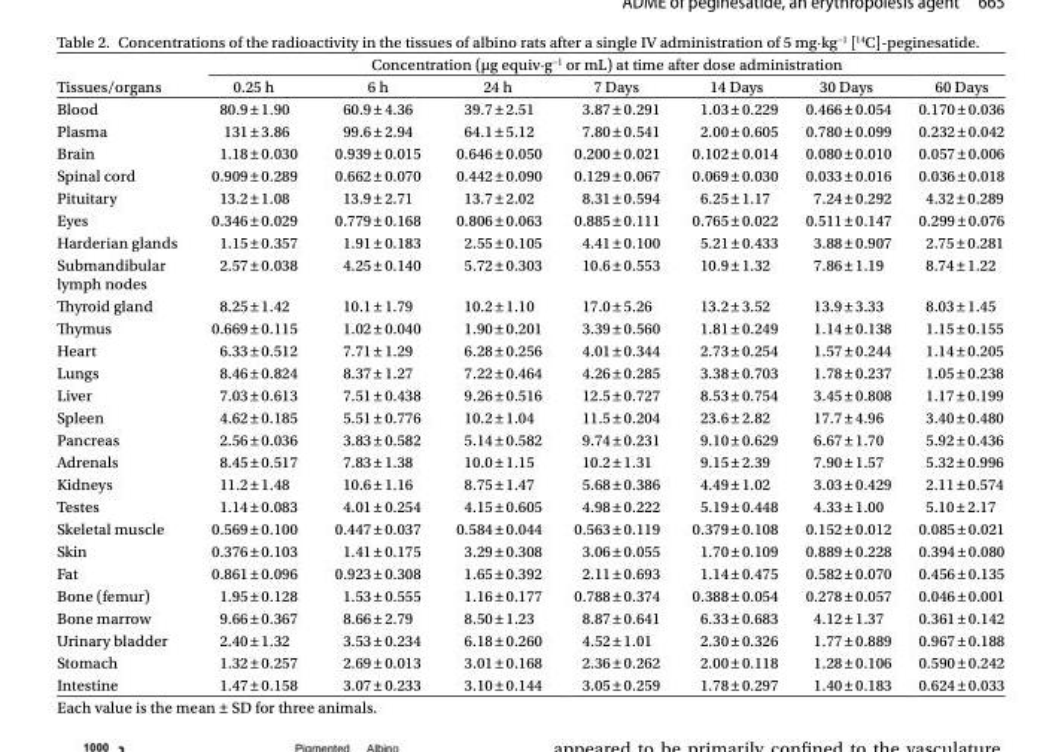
<table><thead><tr><td rowspan="2">Tissues/organs</td><td colspan="7">Concentration (µg equiv·g<sup>−1</sup> or mL) at time after dose administration</td></tr><tr><td>0.25 h</td><td>6 h</td><td>24 h</td><td>7 Days</td><td>14 Days</td><td>30 Days</td><td>60 Days</td></tr></thead><tbody><tr><td>Blood</td><td>80.9 ± 1.90</td><td>60.9 ± 4.36</td><td>39.7 ± 2.51</td><td>3.87 ± 0.291</td><td>1.03 ± 0.229</td><td>0.466 ± 0.054</td><td>0.170 ± 0.036</td></tr><tr><td>Plasma</td><td>131 ± 3.86</td><td>99.6 ± 2.94</td><td>64.1 ± 5.12</td><td>7.80 ± 0.541</td><td>2.00 ± 0.605</td><td>0.780 ± 0.099</td><td>0.232 ± 0.042</td></tr><tr><td>Brain</td><td>1.18 ± 0.030</td><td>0.939 ± 0.015</td><td>0.646 ± 0.050</td><td>0.200 ± 0.021</td><td>0.102 ± 0.014</td><td>0.080 ± 0.010</td><td>0.057 ± 0.006</td></tr><tr><td>Spinal cord</td><td>0.909 ± 0.289</td><td>0.662 ± 0.070</td><td>0.442 ± 0.090</td><td>0.129 ± 0.067</td><td>0.069 ± 0.030</td><td>0.033 ± 0.016</td><td>0.036 ± 0.018</td></tr><tr><td>Pituitary</td><td>13.2 ± 1.08</td><td>13.9 ± 2.71</td><td>13.7 ± 2.02</td><td>8.31 ± 0.594</td><td>6.25 ± 1.17</td><td>7.24 ± 0.292</td><td>4.32 ± 0.289</td></tr><tr><td>Eyes</td><td>0.346 ± 0.029</td><td>0.779 ± 0.168</td><td>0.806 ± 0.063</td><td>0.885 ± 0.111</td><td>0.765 ± 0.022</td><td>0.511 ± 0.147</td><td>0.299 ± 0.076</td></tr><tr><td>Harderian glands</td><td>1.15 ± 0.357</td><td>1.91 ± 0.183</td><td>2.55 ± 0.105</td><td>4.41 ± 0.100</td><td>5.21 ± 0.433</td><td>3.88 ± 0.907</td><td>2.75 ± 0.281</td></tr><tr><td>Submandibular lymph nodes</td><td>2.57 ± 0.038</td><td>4.25 ± 0.140</td><td>5.72 ± 0.303</td><td>10.6 ± 0.553</td><td>10.9 ± 1.32</td><td>7.86 ± 1.19</td><td>8.74 ± 1.22</td></tr><tr><td>Thyroid gland</td><td>8.25 ± 1.42</td><td>10.1 ± 1.79</td><td>10.2 ± 1.10</td><td>17.0 ± 5.26</td><td>13.2 ± 3.52</td><td>13.9 ± 3.33</td><td>8.03 ± 1.45</td></tr><tr><td>Thymus</td><td>0.669 ± 0.115</td><td>1.02 ± 0.040</td><td>1.90 ± 0.201</td><td>3.39 ± 0.560</td><td>1.81 ± 0.249</td><td>1.14 ± 0.138</td><td>1.15 ± 0.155</td></tr><tr><td>Heart</td><td>6.33 ± 0.512</td><td>7.71 ± 1.29</td><td>6.28 ± 0.256</td><td>4.01 ± 0.344</td><td>2.73 ± 0.254</td><td>1.57 ± 0.244</td><td>1.14 ± 0.205</td></tr><tr><td>Lungs</td><td>8.46 ± 0.824</td><td>8.37 ± 1.27</td><td>7.22 ± 0.464</td><td>4.26 ± 0.285</td><td>3.38 ± 0.703</td><td>1.78 ± 0.237</td><td>1.05 ± 0.238</td></tr><tr><td>Liver</td><td>7.03 ± 0.613</td><td>7.51 ± 0.438</td><td>9.26 ± 0.516</td><td>12.5 ± 0.727</td><td>8.53 ± 0.754</td><td>3.45 ± 0.808</td><td>1.17 ± 0.199</td></tr><tr><td>Spleen</td><td>4.62 ± 0.185</td><td>5.51 ± 0.776</td><td>10.2 ± 1.04</td><td>11.5 ± 0.204</td><td>23.6 ± 2.82</td><td>17.7 ± 4.96</td><td>3.40 ± 0.480</td></tr><tr><td>Pancreas</td><td>2.56 ± 0.036</td><td>3.83 ± 0.582</td><td>5.14 ± 0.582</td><td>9.74 ± 0.231</td><td>9.10 ± 0.629</td><td>6.67 ± 1.70</td><td>5.92 ± 0.436</td></tr><tr><td>Adrenals</td><td>8.45 ± 0.517</td><td>7.83 ± 1.38</td><td>10.0 ± 1.15</td><td>10.2 ± 1.31</td><td>9.15 ± 2.39</td><td>7.90 ± 1.57</td><td>5.32 ± 0.996</td></tr><tr><td>Kidneys</td><td>11.2 ± 1.48</td><td>10.6 ± 1.16</td><td>8.75 ± 1.47</td><td>5.68 ± 0.386</td><td>4.49 ± 1.02</td><td>3.03 ± 0.429</td><td>2.11 ± 0.574</td></tr><tr><td>Testes</td><td>1.14 ± 0.083</td><td>4.01 ± 0.254</td><td>4.15 ± 0.605</td><td>4.98 ± 0.222</td><td>5.19 ± 0.448</td><td>4.33 ± 1.00</td><td>5.10 ± 2.17</td></tr><tr><td>Skeletal muscle</td><td>0.569 ± 0.100</td><td>0.447 ± 0.037</td><td>0.584 ± 0.044</td><td>0.563 ± 0.119</td><td>0.379 ± 0.108</td><td>0.152 ± 0.012</td><td>0.085 ± 0.021</td></tr><tr><td>Skin</td><td>0.376 ± 0.103</td><td>1.41 ± 0.175</td><td>3.29 ± 0.308</td><td>3.06 ± 0.055</td><td>1.70 ± 0.109</td><td>0.889 ± 0.228</td><td>0.394 ± 0.080</td></tr><tr><td>Fat</td><td>0.861 ± 0.096</td><td>0.923 ± 0.308</td><td>1.65 ± 0.392</td><td>2.11 ± 0.693</td><td>1.14 ± 0.475</td><td>0.582 ± 0.070</td><td>0.456 ± 0.135</td></tr><tr><td>Bone (femur)</td><td>1.95 ± 0.128</td><td>1.53 ± 0.555</td><td>1.16 ± 0.177</td><td>0.788 ± 0.374</td><td>0.388 ± 0.054</td><td>0.278 ± 0.057</td><td>0.046 ± 0.001</td></tr><tr><td>Bone marrow</td><td>9.66 ± 0.367</td><td>8.66 ± 2.79</td><td>8.50 ± 1.23</td><td>8.87 ± 0.641</td><td>6.33 ± 0.683</td><td>4.12 ± 1.37</td><td>0.361 ± 0.142</td></tr><tr><td>Urinary bladder</td><td>2.40 ± 1.32</td><td>3.53 ± 0.234</td><td>6.18 ± 0.260</td><td>4.52 ± 1.01</td><td>2.30 ± 0.326</td><td>1.77 ± 0.889</td><td>0.967 ± 0.188</td></tr><tr><td>Stomach</td><td>1.32 ± 0.257</td><td>2.69 ± 0.013</td><td>3.01 ± 0.168</td><td>2.36 ± 0.262</td><td>2.00 ± 0.118</td><td>1.28 ± 0.106</td><td>0.590 ± 0.242</td></tr><tr><td>Intestine</td><td>1.47 ± 0.158</td><td>3.07 ± 0.233</td><td>3.10 ± 0.144</td><td>3.05 ± 0.259</td><td>1.78 ± 0.297</td><td>1.40 ± 0.183</td><td>0.624 ± 0.033</td></tr></tbody></table>